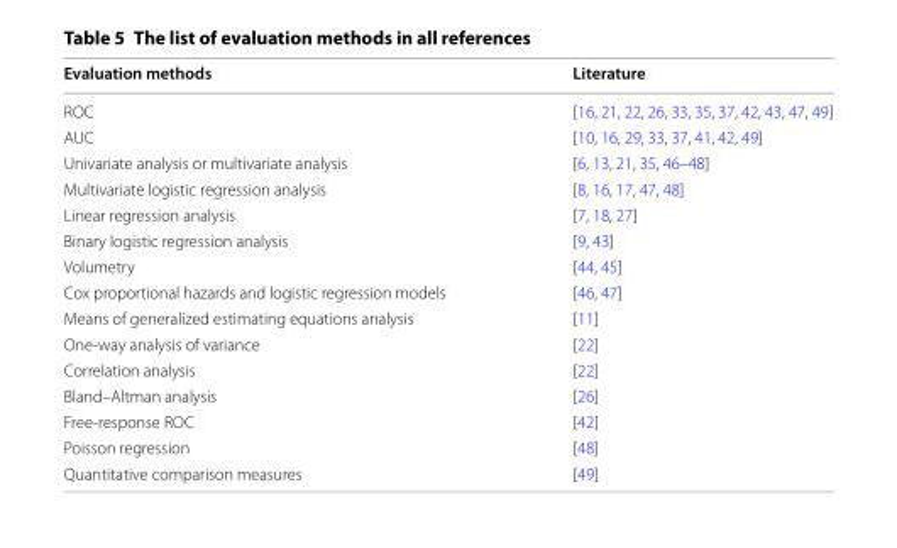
<table><thead><tr><td>Evaluation methods</td><td>Literature</td></tr></thead><tbody><tr><td>ROC</td><td>[16, 21, 22, 26, 33, 35, 37, 42, 43, 47, 49]</td></tr><tr><td>AUC</td><td>[10, 16, 29, 33, 37, 41, 42, 49]</td></tr><tr><td>Univariate analysis or multivariate analysis</td><td>[6, 13, 21, 35, 46–48]</td></tr><tr><td>Multivariate logistic regression analysis</td><td>[8, 16, 17, 47, 48]</td></tr><tr><td>Linear regression analysis</td><td>[7, 18, 27]</td></tr><tr><td>Binary logistic regression analysis</td><td>[9, 43]</td></tr><tr><td>Volumetry</td><td>[44, 45]</td></tr><tr><td>Cox proportional hazards and logistic regression models</td><td>[46, 47]</td></tr><tr><td>Means of generalized estimating equations analysis</td><td>[11]</td></tr><tr><td>One-way analysis of variance</td><td>[22]</td></tr><tr><td>Correlation analysis</td><td>[22]</td></tr><tr><td>Bland–Altman analysis</td><td>[26]</td></tr><tr><td>Free-response ROC</td><td>[42]</td></tr><tr><td>Poisson regression</td><td>[48]</td></tr><tr><td>Quantitative comparison measures</td><td>[49]</td></tr></tbody></table>